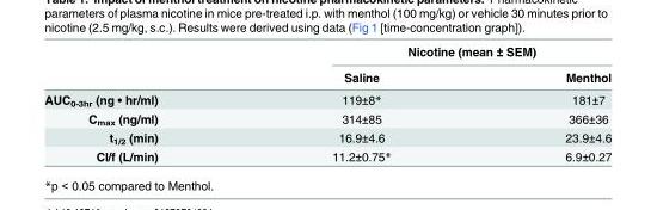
<table><thead><tr><td rowspan="2"></td><td colspan="2">Nicotine (mean ± SEM)</td></tr><tr><td>Saline</td><td>Menthol</td></tr></thead><tbody><tr><td>AUC<sub>0-3hr</sub> (ng • hr/ml)</td><td>119±8*</td><td>181±7</td></tr><tr><td>C<sub>max</sub> (ng/ml)</td><td>314±85</td><td>366±36</td></tr><tr><td>t<sub>1/2</sub> (min)</td><td>16.9±4.6</td><td>23.9±4.6</td></tr><tr><td>Cl/f (L/min)</td><td>11.2±0.75*</td><td>6.9±0.27</td></tr></tbody></table>